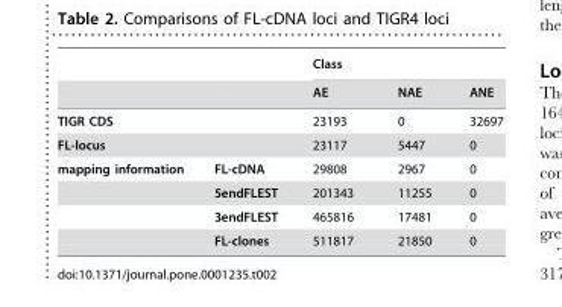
<table><thead><tr><td rowspan="2"></td><td rowspan="2"></td><td colspan="3">Class</td></tr><tr><td>AE</td><td>NAE</td><td>ANE</td></tr></thead><tbody><tr><td colspan="2">TIGR CDS</td><td>23193</td><td>0</td><td>32697</td></tr><tr><td colspan="2">FL-locus</td><td>23117</td><td>5447</td><td>0</td></tr><tr><td rowspan="4">mapping information</td><td>FL-cDNA</td><td>29808</td><td>2967</td><td>0</td></tr><tr><td>5endFLEST</td><td>201343</td><td>11255</td><td>0</td></tr><tr><td>3endFLEST</td><td>465816</td><td>17481</td><td>0</td></tr><tr><td>FL-clones</td><td>511817</td><td>21850</td><td>0</td></tr></tbody></table>